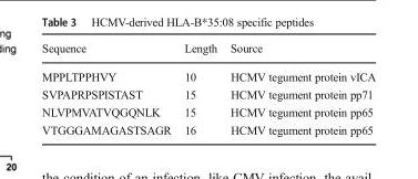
<table><thead><tr><td>Sequence</td><td>Length</td><td>Source</td></tr></thead><tbody><tr><td>MPPLTPPHVY</td><td>10</td><td>HCMV tegument protein vICA</td></tr><tr><td>SVPAPRPSPISTAST</td><td>15</td><td>HCMV tegument protein pp71</td></tr><tr><td>NLVPMVATVQGQNLK</td><td>15</td><td>HCMV tegument protein pp65</td></tr><tr><td>VTGGGAMAGASTSAGR</td><td>16</td><td>HCMV tegument protein pp65</td></tr></tbody></table>